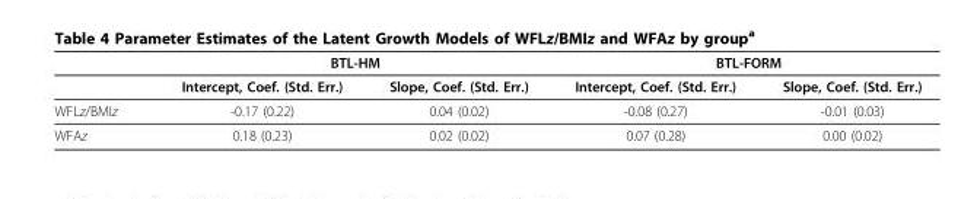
<table><thead><tr><td rowspan="2"></td><td colspan="2">BTL-HM</td><td colspan="2">BTL-FORM</td></tr><tr><td>Intercept, Coef. (Std. Err.)</td><td>Slope, Coef. (Std. Err.)</td><td>Intercept, Coef. (Std. Err.)</td><td>Slope, Coef. (Std. Err.)</td></tr></thead><tbody><tr><td>WFLz/BMIz</td><td>-0.17 (0.22)</td><td>0.04 (0.02)</td><td>-0.08 (0.27)</td><td>-0.01 (0.03)</td></tr><tr><td>WFAz</td><td>0.18 (0.23)</td><td>0.02 (0.02)</td><td>0.07 (0.28)</td><td>0.00 (0.02)</td></tr></tbody></table>